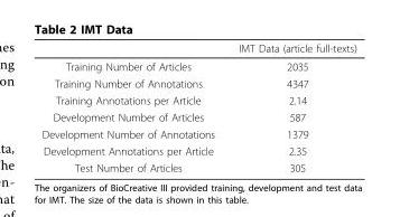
<table><thead><tr><td></td><td>IMT Data (article full-texts)</td></tr></thead><tbody><tr><td>Training Number of Articles</td><td>2035</td></tr><tr><td>Training Number of Annotations</td><td>4347</td></tr><tr><td>Training Annotations per Article</td><td>2.14</td></tr><tr><td>Development Number of Articles</td><td>587</td></tr><tr><td>Development Number of Annotations</td><td>1379</td></tr><tr><td>Development Annotations per Article</td><td>2.35</td></tr><tr><td>Test Number of Articles</td><td>305</td></tr></tbody></table>